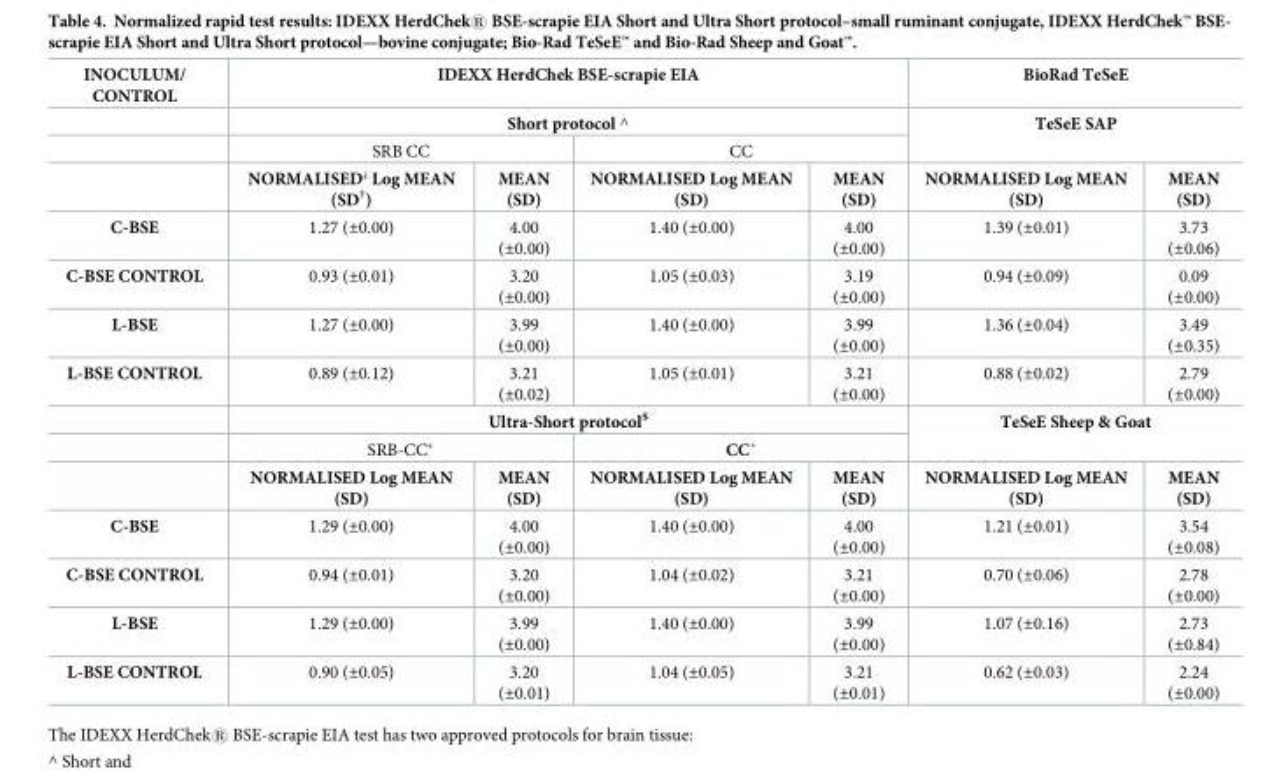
<table><thead><tr><td rowspan="4">INOCULUM/ CONTROL</td><td rowspan="2" colspan="4">IDEXX HerdChek BSE-scrapie EIA Short protocol ^</td><td rowspan="3" colspan="2">BioRad TeSeE TeSeE SAP</td></tr><tr></tr><tr><td colspan="2">SRB CC</td><td colspan="2">CC</td></tr><tr><td>NORMALISED<sup>¿</sup> Log MEAN (SD<sup>†</sup>)</td><td>MEAN (SD)</td><td>NORMALISED Log MEAN (SD)</td><td>MEAN (SD)</td><td>NORMALISED Log MEAN (SD)</td><td>MEAN (SD)</td></tr></thead><tbody><tr><td>C-BSE</td><td>1.27 (±0.00)</td><td>4.00 (±0.00)</td><td>1.40 (±0.00)</td><td>4.00 (±0.00)</td><td>1.39 (±0.01)</td><td>3.73 (±0.06)</td></tr><tr><td>C-BSE CONTROL</td><td>0.93 (±0.01)</td><td>3.20 (±0.00)</td><td>1.05 (±0.03)</td><td>3.19 (±0.00)</td><td>0.94 (±0.09)</td><td>0.09 (±0.00)</td></tr><tr><td>L-BSE</td><td>1.27 (±0.00)</td><td>3.99 (±0.00)</td><td>1.40 (±0.00)</td><td>3.99 (±0.00)</td><td>1.36 (±0.04)</td><td>3.49 (±0.35)</td></tr><tr><td rowspan="4">L-BSE CONTROL</td><td>0.89 (±0.12)</td><td>3.21 (±0.02)</td><td>1.05 (±0.01)</td><td>3.21 (±0.00)</td><td>0.88 (±0.02)</td><td>2.79 (±0.00)</td></tr><tr><td colspan="4">Ultra-Short protocol<sup>$</sup></td><td rowspan="2" colspan="2">TeSeE Sheep &amp; Goat</td></tr><tr><td colspan="2">SRB-CC*</td><td colspan="2">CC˚</td></tr><tr><td>NORMALISED Log MEAN (SD)</td><td>MEAN (SD)</td><td>NORMALISED Log MEAN (SD)</td><td>MEAN (SD)</td><td>NORMALISED Log MEAN (SD)</td><td>MEAN (SD)</td></tr><tr><td>C-BSE</td><td>1.29 (±0.00)</td><td>4.00 (±0.00)</td><td>1.40 (±0.00)</td><td>4.00 (±0.00)</td><td>1.21 (±0.01)</td><td>3.54 (±0.08)</td></tr><tr><td>C-BSE CONTROL</td><td>0.94 (±0.01)</td><td>3.20 (±0.00)</td><td>1.04 (±0.02)</td><td>3.21 (±0.00)</td><td>0.70 (±0.06)</td><td>2.78 (±0.00)</td></tr><tr><td>L-BSE</td><td>1.29 (±0.00)</td><td>3.99 (±0.00)</td><td>1.40 (±0.00)</td><td>3.99 (±0.00)</td><td>1.07 (±0.16)</td><td>2.73 (±0.84)</td></tr><tr><td>L-BSE CONTROL</td><td>0.90 (±0.05)</td><td>3.20 (±0.01)</td><td>1.04 (±0.05)</td><td>3.21 (±0.01)</td><td>0.62 (±0.03)</td><td>2.24 (±0.00)</td></tr></tbody></table>